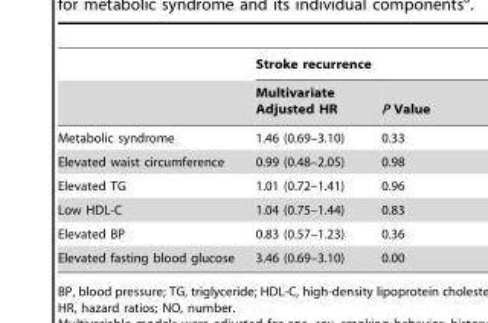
<table><thead><tr><td rowspan="2"></td><td colspan="2">Stroke recurrence</td></tr><tr><td>Multivariate Adjusted HR</td><td>P Value</td></tr></thead><tbody><tr><td>Metabolic syndrome</td><td>1.46 (0.69–3.10)</td><td>0.33</td></tr><tr><td>Elevated waist circumference</td><td>0.99 (0.48–2.05)</td><td>0.98</td></tr><tr><td>Elevated TG</td><td>1.01 (0.72–1.41)</td><td>0.96</td></tr><tr><td>Low HDL-C</td><td>1.04 (0.75–1.44)</td><td>0.83</td></tr><tr><td>Elevated BP</td><td>0.83 (0.57–1.23)</td><td>0.36</td></tr><tr><td>Elevated fasting blood glucose</td><td>3.46 (0.69–3.10)</td><td>0.00</td></tr></tbody></table>